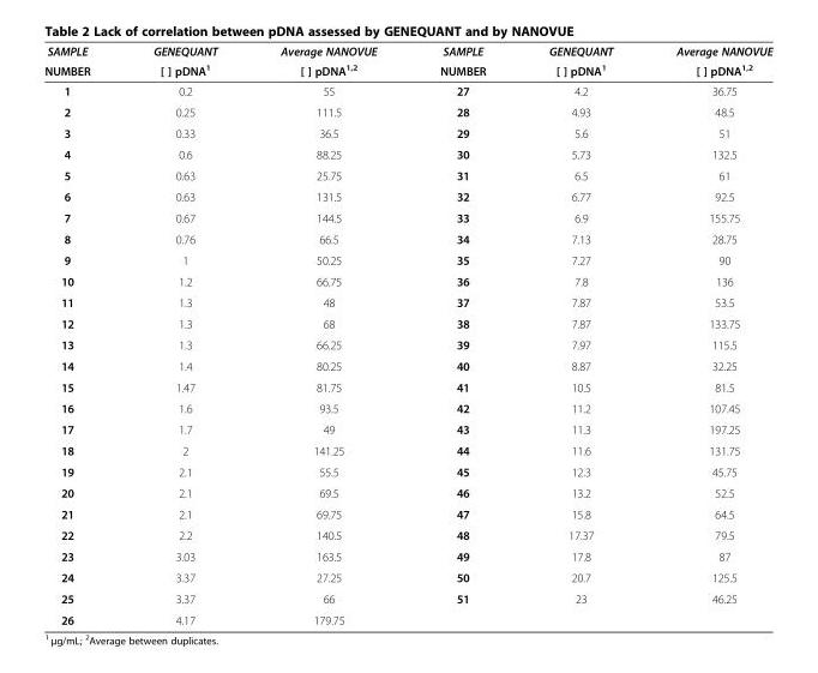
<table><thead><tr><td rowspan="2">SAMPLE NUMBER</td><td rowspan="2">GENEQUANT [ ] pDNA<sup>1</sup></td><td rowspan="2">Average NANOVUE [ ] pDNA<sup>1,2</sup></td><td rowspan="2">SAMPLE NUMBER</td><td rowspan="2">GENEQUANT [ ] pDNA<sup>1</sup></td><td rowspan="2">Average NANOVUE [ ] pDNA<sup>1,2</sup></td></tr><tr></tr></thead><tbody><tr><td>1</td><td>0.2</td><td>55</td><td>27</td><td>4.2</td><td>36.75</td></tr><tr><td>2</td><td>0.25</td><td>111.5</td><td>28</td><td>4.93</td><td>48.5</td></tr><tr><td>3</td><td>0.33</td><td>36.5</td><td>29</td><td>5.6</td><td>51</td></tr><tr><td>4</td><td>0.6</td><td>88.25</td><td>30</td><td>5.73</td><td>132.5</td></tr><tr><td>5</td><td>0.63</td><td>25.75</td><td>31</td><td>6.5</td><td>61</td></tr><tr><td>6</td><td>0.63</td><td>131.5</td><td>32</td><td>6.77</td><td>92.5</td></tr><tr><td>7</td><td>0.67</td><td>144.5</td><td>33</td><td>6.9</td><td>155.75</td></tr><tr><td>8</td><td>0.76</td><td>66.5</td><td>34</td><td>7.13</td><td>28.75</td></tr><tr><td>9</td><td>1</td><td>50.25</td><td>35</td><td>7.27</td><td>90</td></tr><tr><td>10</td><td>1.2</td><td>66.75</td><td>36</td><td>7.8</td><td>136</td></tr><tr><td>11</td><td>1.3</td><td>48</td><td>37</td><td>7.87</td><td>53.5</td></tr><tr><td>12</td><td>1.3</td><td>68</td><td>38</td><td>7.87</td><td>133.75</td></tr><tr><td>13</td><td>1.3</td><td>66.25</td><td>39</td><td>7.97</td><td>115.5</td></tr><tr><td>14</td><td>1.4</td><td>80.25</td><td>40</td><td>8.87</td><td>32.25</td></tr><tr><td>15</td><td>1.47</td><td>81.75</td><td>41</td><td>10.5</td><td>81.5</td></tr><tr><td>16</td><td>1.6</td><td>93.5</td><td>42</td><td>11.2</td><td>107.45</td></tr><tr><td>17</td><td>1.7</td><td>49</td><td>43</td><td>11.3</td><td>197.25</td></tr><tr><td>18</td><td>2</td><td>141.25</td><td>44</td><td>11.6</td><td>131.75</td></tr><tr><td>19</td><td>2.1</td><td>55.5</td><td>45</td><td>12.3</td><td>45.75</td></tr><tr><td>20</td><td>2.1</td><td>69.5</td><td>46</td><td>13.2</td><td>52.5</td></tr><tr><td>21</td><td>2.1</td><td>69.75</td><td>47</td><td>15.8</td><td>64.5</td></tr><tr><td>22</td><td>2.2</td><td>140.5</td><td>48</td><td>17.37</td><td>79.5</td></tr><tr><td>23</td><td>3.03</td><td>163.5</td><td>49</td><td>17.8</td><td>87</td></tr><tr><td>24</td><td>3.37</td><td>27.25</td><td>50</td><td>20.7</td><td>125.5</td></tr><tr><td>25</td><td>3.37</td><td>66</td><td>51</td><td>23</td><td>46.25</td></tr><tr><td>26</td><td>4.17</td><td>179.75</td><td></td><td></td><td></td></tr></tbody></table>